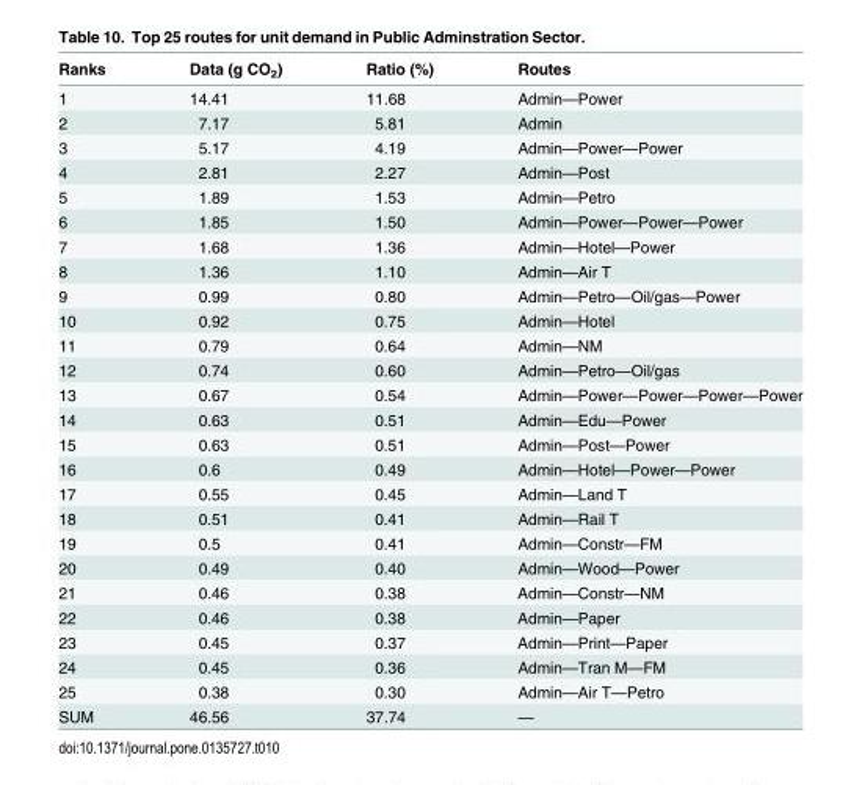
<table><thead><tr><td>Ranks</td><td>Data (g CO<sub>2</sub>)</td><td>Ratio (%)</td><td>Routes</td></tr></thead><tbody><tr><td>1</td><td>14.41</td><td>11.68</td><td>Admin—Power</td></tr><tr><td>2</td><td>7.17</td><td>5.81</td><td>Admin</td></tr><tr><td>3</td><td>5.17</td><td>4.19</td><td>Admin—Power—Power</td></tr><tr><td>4</td><td>2.81</td><td>2.27</td><td>Admin—Post</td></tr><tr><td>5</td><td>1.89</td><td>1.53</td><td>Admin—Petro</td></tr><tr><td>6</td><td>1.85</td><td>1.50</td><td>Admin—Power—Power—Power</td></tr><tr><td>7</td><td>1.68</td><td>1.36</td><td>Admin—Hotel—Power</td></tr><tr><td>8</td><td>1.36</td><td>1.10</td><td>Admin—Air T</td></tr><tr><td>9</td><td>0.99</td><td>0.80</td><td>Admin—Petro—Oil/gas—Power</td></tr><tr><td>10</td><td>0.92</td><td>0.75</td><td>Admin—Hotel</td></tr><tr><td>11</td><td>0.79</td><td>0.64</td><td>Admin—NM</td></tr><tr><td>12</td><td>0.74</td><td>0.60</td><td>Admin—Petro—Oil/gas</td></tr><tr><td>13</td><td>0.67</td><td>0.54</td><td>Admin—Power—Power—Power—Power</td></tr><tr><td>14</td><td>0.63</td><td>0.51</td><td>Admin—Edu—Power</td></tr><tr><td>15</td><td>0.63</td><td>0.51</td><td>Admin—Post—Power</td></tr><tr><td>16</td><td>0.6</td><td>0.49</td><td>Admin—Hotel—Power—Power</td></tr><tr><td>17</td><td>0.55</td><td>0.45</td><td>Admin—Land T</td></tr><tr><td>18</td><td>0.51</td><td>0.41</td><td>Admin—Rail T</td></tr><tr><td>19</td><td>0.5</td><td>0.41</td><td>Admin—Constr—FM</td></tr><tr><td>20</td><td>0.49</td><td>0.40</td><td>Admin—Wood—Power</td></tr><tr><td>21</td><td>0.46</td><td>0.38</td><td>Admin—Constr—NM</td></tr><tr><td>22</td><td>0.46</td><td>0.38</td><td>Admin—Paper</td></tr><tr><td>23</td><td>0.45</td><td>0.37</td><td>Admin—Print—Paper</td></tr><tr><td>24</td><td>0.45</td><td>0.36</td><td>Admin—Tran M—FM</td></tr><tr><td>25</td><td>0.38</td><td>0.30</td><td>Admin—Air T—Petro</td></tr><tr><td>SUM</td><td>46.56</td><td>37.74</td><td>—</td></tr></tbody></table>